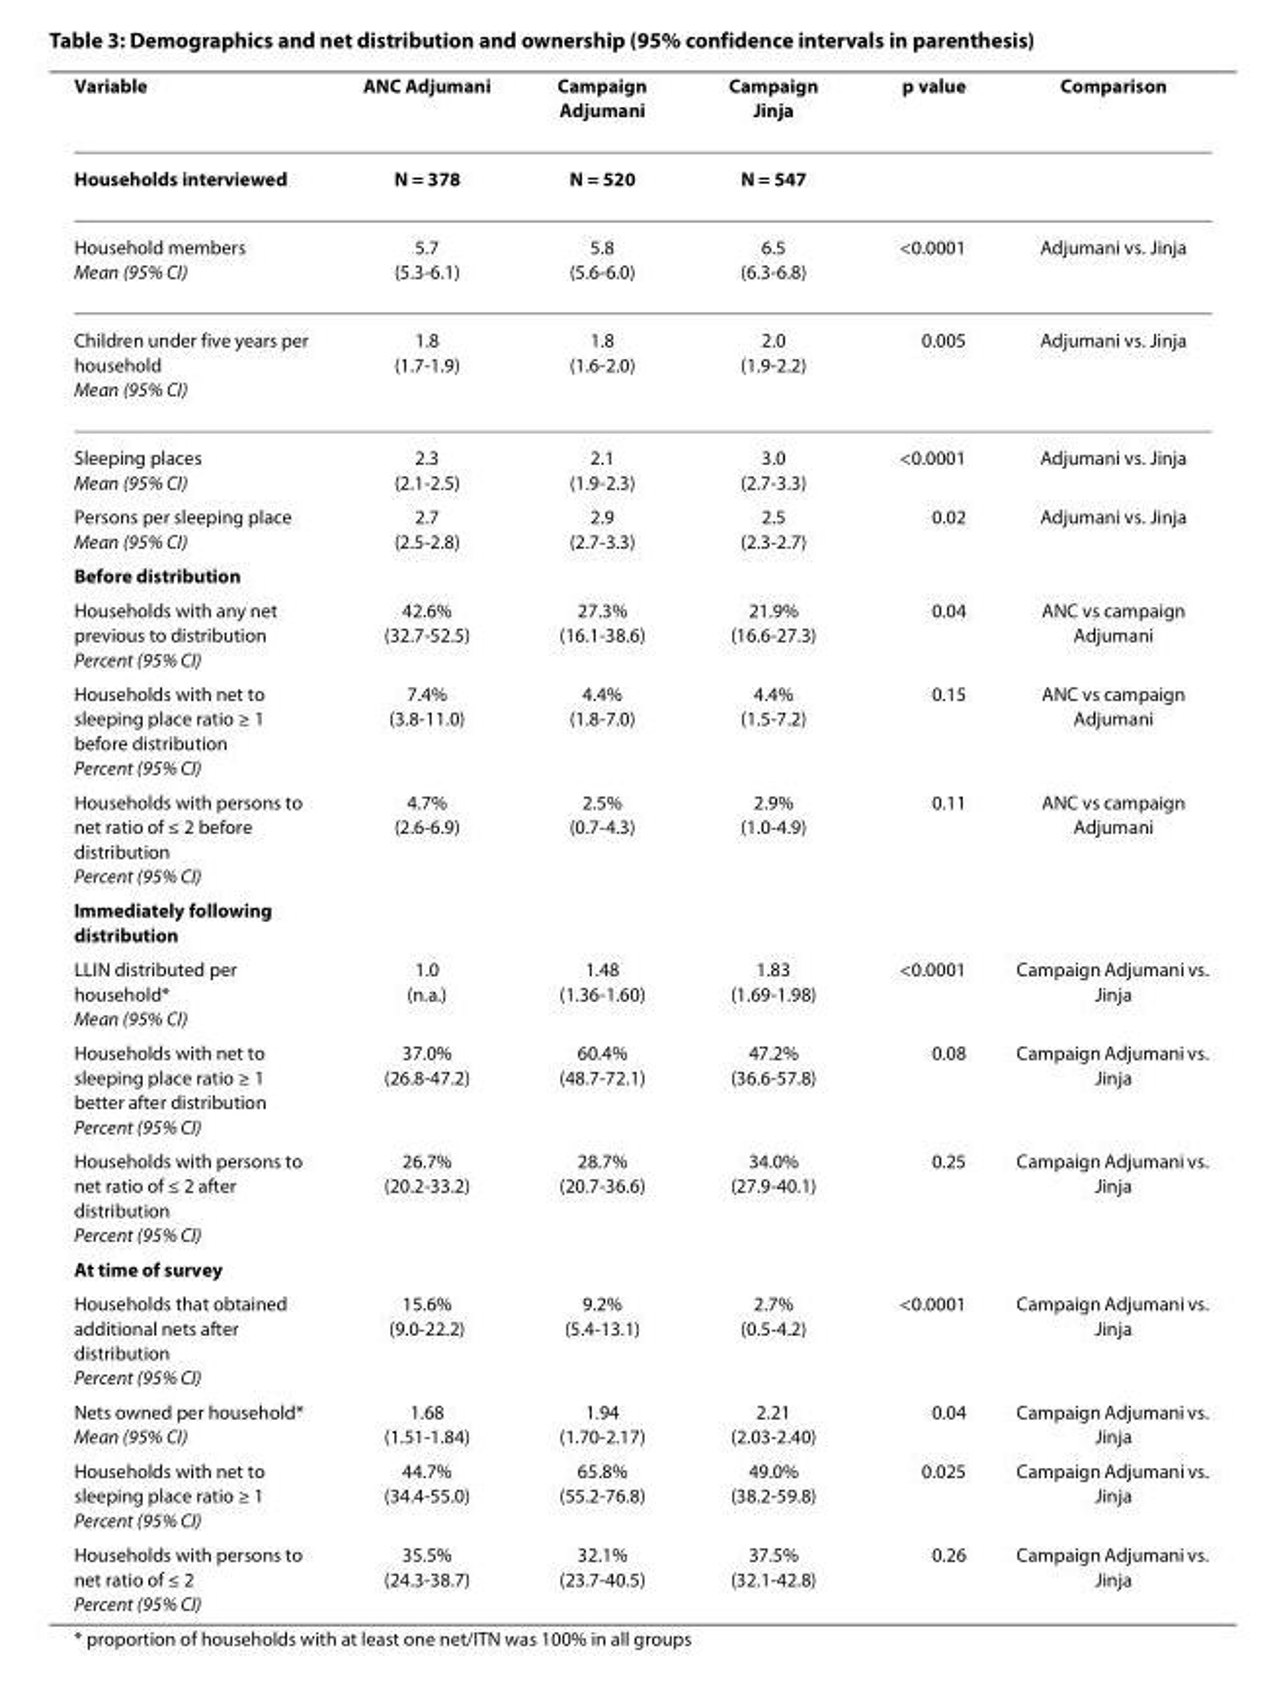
<table><thead><tr><td>Variable</td><td>ANC Adjumani</td><td>Campaign Adjumani</td><td>Campaign Jinja</td><td>p value</td><td>Comparison</td></tr></thead><tbody><tr><td>Households interviewed</td><td>N = 378</td><td>N = 520</td><td>N = 547</td><td></td><td></td></tr><tr><td>Household members Mean (95% CI)</td><td>5.7 (5.3-6.1)</td><td>5.8 (5.6-6.0)</td><td>6.5 (6.3-6.8)</td><td>&lt;0.0001</td><td>Adjumani vs. Jinja</td></tr><tr><td>Children under five years per household Mean (95% CI)</td><td>1.8 (1.7-1.9)</td><td>1.8 (1.6-2.0)</td><td>2.0 (1.9-2.2)</td><td>0.005</td><td>Adjumani vs. Jinja</td></tr><tr><td>Sleeping places Mean (95% CI)</td><td>2.3 (2.1-2.5)</td><td>2.1 (1.9-2.3)</td><td>3.0 (2.7-3.3)</td><td>&lt;0.0001</td><td>Adjumani vs. Jinja</td></tr><tr><td>Persons per sleeping place Mean (95% CI)</td><td>2.7 (2.5-2.8)</td><td>2.9 (2.7-3.3)</td><td>2.5 (2.3-2.7)</td><td>0.02</td><td>Adjumani vs. Jinja</td></tr><tr><td colspan="6">Before distribution</td></tr><tr><td>Households with any net previous to distribution Percent (95% CI)</td><td>42.6% (32.7-52.5)</td><td>27.3% (16.1-38.6)</td><td>21.9% (16.6-27.3)</td><td>0.04</td><td>ANC vs campaign Adjumani</td></tr><tr><td>Households with net to sleeping place ratio ≥ 1 before distribution Percent (95% CI)</td><td>7.4% (3.8-11.0)</td><td>4.4% (1.8-7.0)</td><td>4.4% (1.5-7.2)</td><td>0.15</td><td>ANC vs campaign Adjumani</td></tr><tr><td>Households with persons to net ratio of ≤ 2 before distribution Percent (95% CI)</td><td>4.7% (2.6-6.9)</td><td>2.5% (0.7-4.3)</td><td>2.9% (1.0-4.9)</td><td>0.11</td><td>ANC vs campaign Adjumani</td></tr><tr><td colspan="6">Immediately following distribution</td></tr><tr><td>LLIN distributed per household* Mean (95% CI)</td><td>1.0 (n.a.)</td><td>1.48 (1.36-1.60)</td><td>1.83 (1.69-1.98)</td><td>&lt;0.0001</td><td>Campaign Adjumani vs. Jinja</td></tr><tr><td>Households with net to sleeping place ratio ≥ 1 better after distribution Percent (95% CI)</td><td>37.0% (26.8-47.2)</td><td>60.4% (48.7-72.1)</td><td>47.2% (36.6-57.8)</td><td>0.08</td><td>Campaign Adjumani vs. Jinja</td></tr><tr><td>Households with persons to net ratio of ≤ 2 after distribution Percent (95% CI)</td><td>26.7% (20.2-33.2)</td><td>28.7% (20.7-36.6)</td><td>34.0% (27.9-40.1)</td><td>0.25</td><td>Campaign Adjumani vs. Jinja</td></tr><tr><td colspan="6">At time of survey</td></tr><tr><td>Households that obtained additional nets after distribution Percent (95% CI)</td><td>15.6% (9.0-22.2)</td><td>9.2% (5.4-13.1)</td><td>2.7% (0.5-4.2)</td><td>&lt;0.0001</td><td>Campaign Adjumani vs. Jinja</td></tr><tr><td>Nets owned per household* Mean (95% CI)</td><td>1.68 (1.51-1.84)</td><td>1.94 (1.70-2.17)</td><td>2.21 (2.03-2.40)</td><td>0.04</td><td>Campaign Adjumani vs. Jinja</td></tr><tr><td>Households with net to sleeping place ratio ≥ 1 Percent (95% CI)</td><td>44.7% (34.4-55.0)</td><td>65.8% (55.2-76.8)</td><td>49.0% (38.2-59.8)</td><td>0.025</td><td>Campaign Adjumani vs. Jinja</td></tr><tr><td>Households with persons to net ratio of ≤ 2 Percent (95% CI)</td><td>35.5% (24.3-38.7)</td><td>32.1% (23.7-40.5)</td><td>37.5% (32.1-42.8)</td><td>0.26</td><td>Campaign Adjumani vs. Jinja</td></tr></tbody></table>